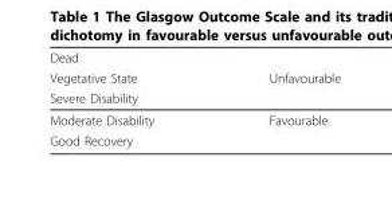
<table><thead><tr><td rowspan="3">Dead Vegetative State Severe Disability</td><td rowspan="3">Unfavourable</td></tr><tr></tr><tr></tr></thead><tbody><tr><td>Moderate Disability</td><td>Favourable</td></tr><tr><td>Good Recovery</td><td></td></tr></tbody></table>